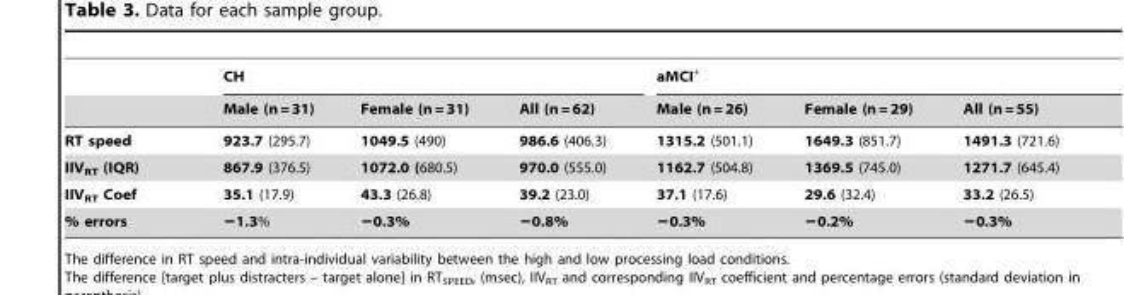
<table><thead><tr><td rowspan="2"></td><td colspan="3">CH</td><td colspan="3">aMCI<sup>+</sup></td></tr><tr><td>Male (n = 31)</td><td>Female (n = 31)</td><td>All (n = 62)</td><td>Male (n = 26)</td><td>Female (n = 29)</td><td>All (n = 55)</td></tr></thead><tbody><tr><td>RT speed</td><td>923.7 (295.7)</td><td>1049.5 (490)</td><td>986.6 (406.3)</td><td>1315.2 (501.1)</td><td>1649.3 (851.7)</td><td>1491.3 (721.6)</td></tr><tr><td>IIV<sub>RT</sub> (IQR)</td><td>867.9 (376.5)</td><td>1072.0 (680.5)</td><td>970.0 (555.0)</td><td>1162.7 (504.8)</td><td>1369.5 (745.0)</td><td>1271.7 (645.4)</td></tr><tr><td>IIV<sub>RT</sub> Coef</td><td>35.1 (17.9)</td><td>43.3 (26.8)</td><td>39.2 (23.0)</td><td>37.1 (17.6)</td><td>29.6 (32.4)</td><td>33.2 (26.5)</td></tr><tr><td>% errors</td><td>−1.3%</td><td>−0.3%</td><td>−0.8%</td><td>−0.3%</td><td>−0.2%</td><td>−0.3%</td></tr></tbody></table>